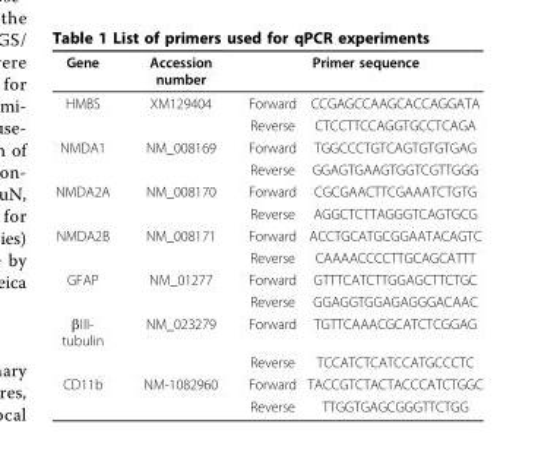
<table><thead><tr><td rowspan="2">Gene HMBS</td><td rowspan="2">Accession number XM129404</td><td colspan="2">Primer sequence</td></tr><tr><td>Forward</td><td>CCGAGCCAAGCACCAGGATA</td></tr></thead><tbody><tr><td></td><td></td><td>Reverse</td><td>CTCCTTCCAGGTGCCTCAGA</td></tr><tr><td rowspan="2">NMDA1</td><td>NM_008169</td><td>Forward</td><td>TGGCCCTGTCAGTGTGTGAG</td></tr><tr><td></td><td>Reverse</td><td>GGAGTGAAGTGGTCGTTGGG</td></tr><tr><td rowspan="2">NMDA2A</td><td>NM_008170</td><td>Forward</td><td>CGCGAACTTCGAAATCTGTG</td></tr><tr><td></td><td>Reverse</td><td>AGGCTCTTAGGGTCAGTGCG</td></tr><tr><td rowspan="2">NMDA2B</td><td>NM_008171</td><td>Forward</td><td>ACCTGCATGCGGAATACAGTC</td></tr><tr><td></td><td>Reverse</td><td>CAAAACCCCTTGCAGCATTT</td></tr><tr><td rowspan="2">GFAP</td><td>NM_01277</td><td>Forward</td><td>GTTTCATCTTGGAGCTTCTGC</td></tr><tr><td></td><td>Reverse</td><td>GGAGGTGGAGAGGGACAAC</td></tr><tr><td rowspan="2">βIII- tubulin</td><td>NM_023279</td><td>Forward</td><td>TGTTCAAACGCATCTCGGAG</td></tr><tr><td></td><td>Reverse</td><td>TCCATCTCATCCATGCCCTC</td></tr><tr><td rowspan="2">CD11b</td><td>NM-1082960</td><td>Forward</td><td>TACCGTCTACTACCCATCTGGC</td></tr><tr><td></td><td>Reverse</td><td>TTGGTGAGCGGGTTCTGG</td></tr></tbody></table>